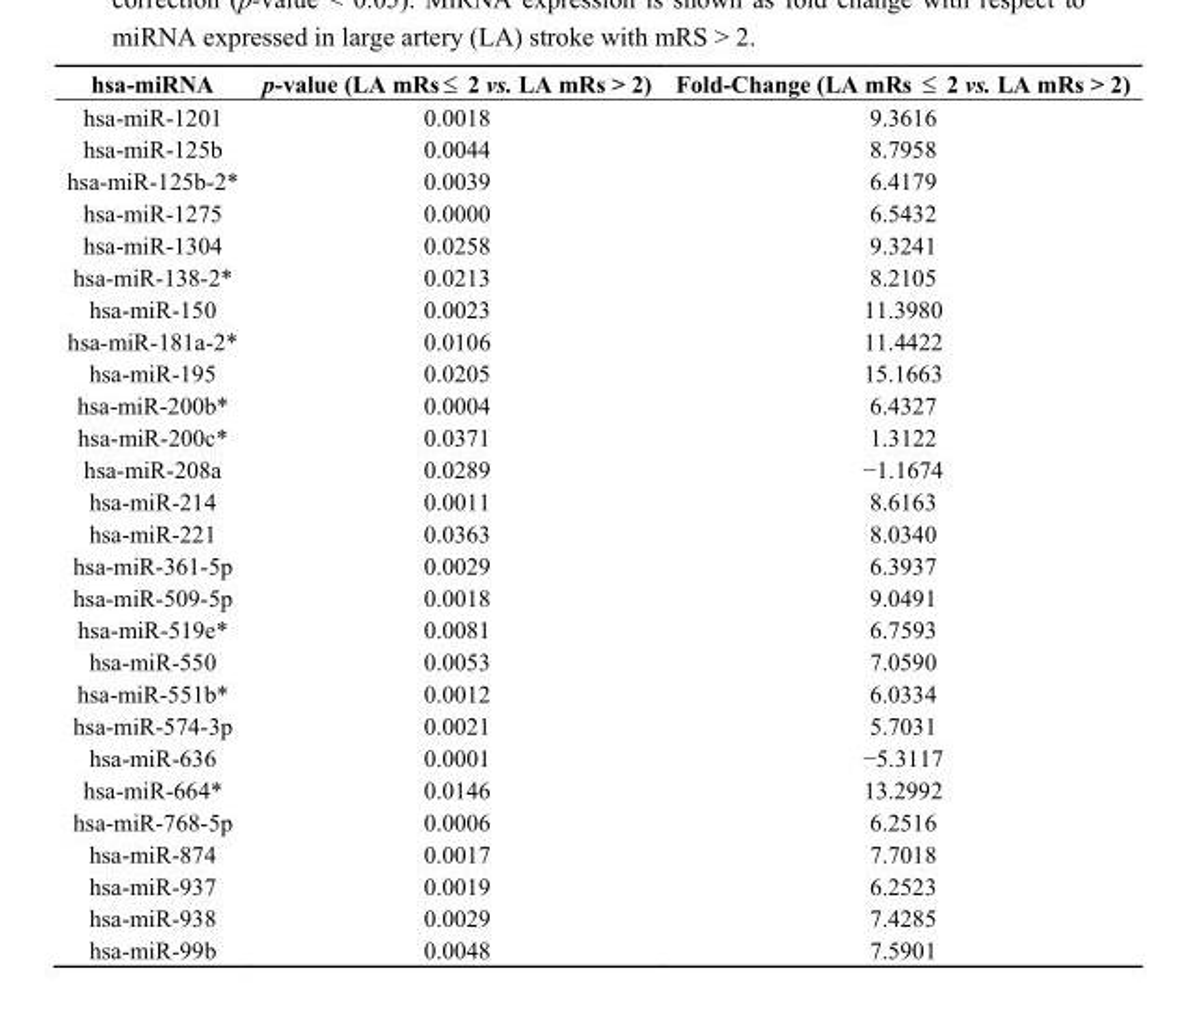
<table><thead><tr><td>hsa-miRNA</td><td>p-value (LA mRs≤ 2 vs. LA mRs &gt; 2)</td><td>Fold-Change (LA mRs ≤ 2 vs. LA mRs &gt; 2)</td></tr></thead><tbody><tr><td>hsa-miR-1201</td><td>0.0018</td><td>9.3616</td></tr><tr><td>hsa-miR-125b</td><td>0.0044</td><td>8.7958</td></tr><tr><td>hsa-miR-125b-2*</td><td>0.0039</td><td>6.4179</td></tr><tr><td>hsa-miR-1275</td><td>0.0000</td><td>6.5432</td></tr><tr><td>hsa-miR-1304</td><td>0.0258</td><td>9.3241</td></tr><tr><td>hsa-miR-138-2*</td><td>0.0213</td><td>8.2105</td></tr><tr><td>hsa-miR-150</td><td>0.0023</td><td>11.3980</td></tr><tr><td>hsa-miR-181a-2*</td><td>0.0106</td><td>11.4422</td></tr><tr><td>hsa-miR-195</td><td>0.0205</td><td>15.1663</td></tr><tr><td>hsa-miR-200b*</td><td>0.0004</td><td>6.4327</td></tr><tr><td>hsa-miR-200c*</td><td>0.0371</td><td>1.3122</td></tr><tr><td>hsa-miR-208a</td><td>0.0289</td><td>−1.1674</td></tr><tr><td>hsa-miR-214</td><td>0.0011</td><td>8.6163</td></tr><tr><td>hsa-miR-221</td><td>0.0363</td><td>8.0340</td></tr><tr><td>hsa-miR-361-5p</td><td>0.0029</td><td>6.3937</td></tr><tr><td>hsa-miR-509-5p</td><td>0.0018</td><td>9.0491</td></tr><tr><td>hsa-miR-519e*</td><td>0.0081</td><td>6.7593</td></tr><tr><td>hsa-miR-550</td><td>0.0053</td><td>7.0590</td></tr><tr><td>hsa-miR-551b*</td><td>0.0012</td><td>6.0334</td></tr><tr><td>hsa-miR-574-3p</td><td>0.0021</td><td>5.7031</td></tr><tr><td>hsa-miR-636</td><td>0.0001</td><td>−5.3117</td></tr><tr><td>hsa-miR-664*</td><td>0.0146</td><td>13.2992</td></tr><tr><td>hsa-miR-768-5p</td><td>0.0006</td><td>6.2516</td></tr><tr><td>hsa-miR-874</td><td>0.0017</td><td>7.7018</td></tr><tr><td>hsa-miR-937</td><td>0.0019</td><td>6.2523</td></tr><tr><td>hsa-miR-938</td><td>0.0029</td><td>7.4285</td></tr><tr><td>hsa-miR-99b</td><td>0.0048</td><td>7.5901</td></tr></tbody></table>